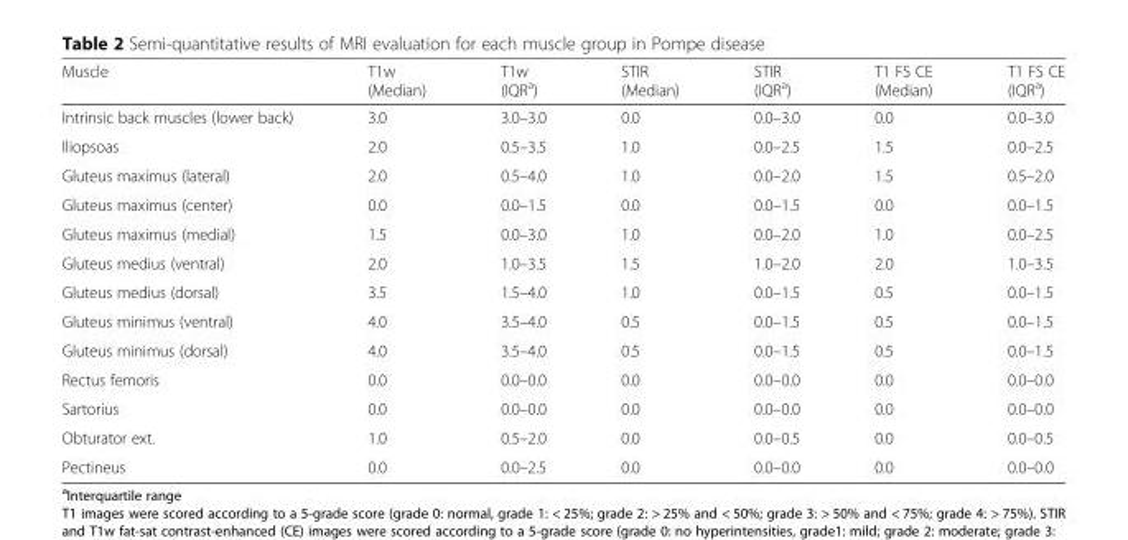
<table><thead><tr><td>Muscle</td><td>T1w (Median)</td><td>T1w (IQR<sup>a</sup>)</td><td>STIR (Median)</td><td>STIR (IQR<sup>a</sup>)</td><td>T1 FS CE (Median)</td><td>T1 FS CE (IQR<sup>a</sup>)</td></tr></thead><tbody><tr><td>Intrinsic back muscles (lower back)</td><td>3.0</td><td>3.0–3.0</td><td>0.0</td><td>0.0–3.0</td><td>0.0</td><td>0.0–3.0</td></tr><tr><td>Iliopsoas</td><td>2.0</td><td>0.5–3.5</td><td>1.0</td><td>0.0–2.5</td><td>1.5</td><td>0.0–2.5</td></tr><tr><td>Gluteus maximus (lateral)</td><td>2.0</td><td>0.5–4.0</td><td>1.0</td><td>0.0–2.0</td><td>1.5</td><td>0.5–2.0</td></tr><tr><td>Gluteus maximus (center)</td><td>0.0</td><td>0.0–1.5</td><td>0.0</td><td>0.0–1.5</td><td>0.0</td><td>0.0–1.5</td></tr><tr><td>Gluteus maximus (medial)</td><td>1.5</td><td>0.0–3.0</td><td>1.0</td><td>0.0–2.0</td><td>1.0</td><td>0.0–2.5</td></tr><tr><td>Gluteus medius (ventral)</td><td>2.0</td><td>1.0–3.5</td><td>1.5</td><td>1.0–2.0</td><td>2.0</td><td>1.0–3.5</td></tr><tr><td>Gluteus medius (dorsal)</td><td>3.5</td><td>1.5–4.0</td><td>1.0</td><td>0.0–1.5</td><td>0.5</td><td>0.0–1.5</td></tr><tr><td>Gluteus minimus (ventral)</td><td>4.0</td><td>3.5–4.0</td><td>0.5</td><td>0.0–1.5</td><td>0.5</td><td>0.0–1.5</td></tr><tr><td>Gluteus minimus (dorsal)</td><td>4.0</td><td>3.5–4.0</td><td>0.5</td><td>0.0–1.5</td><td>0.5</td><td>0.0–1.5</td></tr><tr><td>Rectus femoris</td><td>0.0</td><td>0.0–0.0</td><td>0.0</td><td>0.0–0.0</td><td>0.0</td><td>0.0–0.0</td></tr><tr><td>Sartorius</td><td>0.0</td><td>0.0–0.0</td><td>0.0</td><td>0.0–0.0</td><td>0.0</td><td>0.0–0.0</td></tr><tr><td>Obturator ext.</td><td>1.0</td><td>0.5–2.0</td><td>0.0</td><td>0.0–0.5</td><td>0.0</td><td>0.0–0.5</td></tr><tr><td>Pectineus</td><td>0.0</td><td>0.0–2.5</td><td>0.0</td><td>0.0–0.0</td><td>0.0</td><td>0.0–0.0</td></tr></tbody></table>